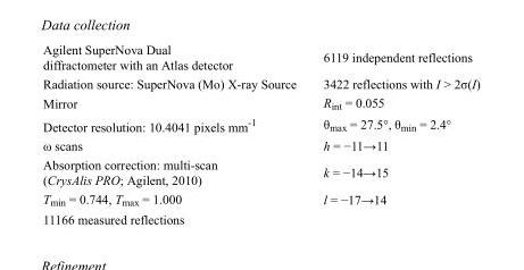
<table><tbody><tr><td>Agilent SuperNova Dual diffractometer with an Atlas detector</td><td>6119 independent reflections</td></tr><tr><td>Radiation source: SuperNova (Mo) X-ray Source</td><td>3422 reflections with I &gt; 2σ(I)</td></tr><tr><td>Mirror</td><td>R<sub>int</sub> = 0.055</td></tr><tr><td>Detector resolution: 10.4041 pixels mm<sup>-1</sup></td><td>θ<sub>max</sub> = 27.5°, θ<sub>min</sub> = 2.4°</td></tr><tr><td>ω scans</td><td>h = −11→11</td></tr><tr><td>Absorption correction: multi-scan (CrysAlis PRO; Agilent, 2010)</td><td>k = −14→15</td></tr><tr><td>T<sub>min</sub> = 0.744, T<sub>max</sub> = 1.000</td><td>l = −17→14</td></tr><tr><td>11166 measured reflections</td><td></td></tr></tbody></table>